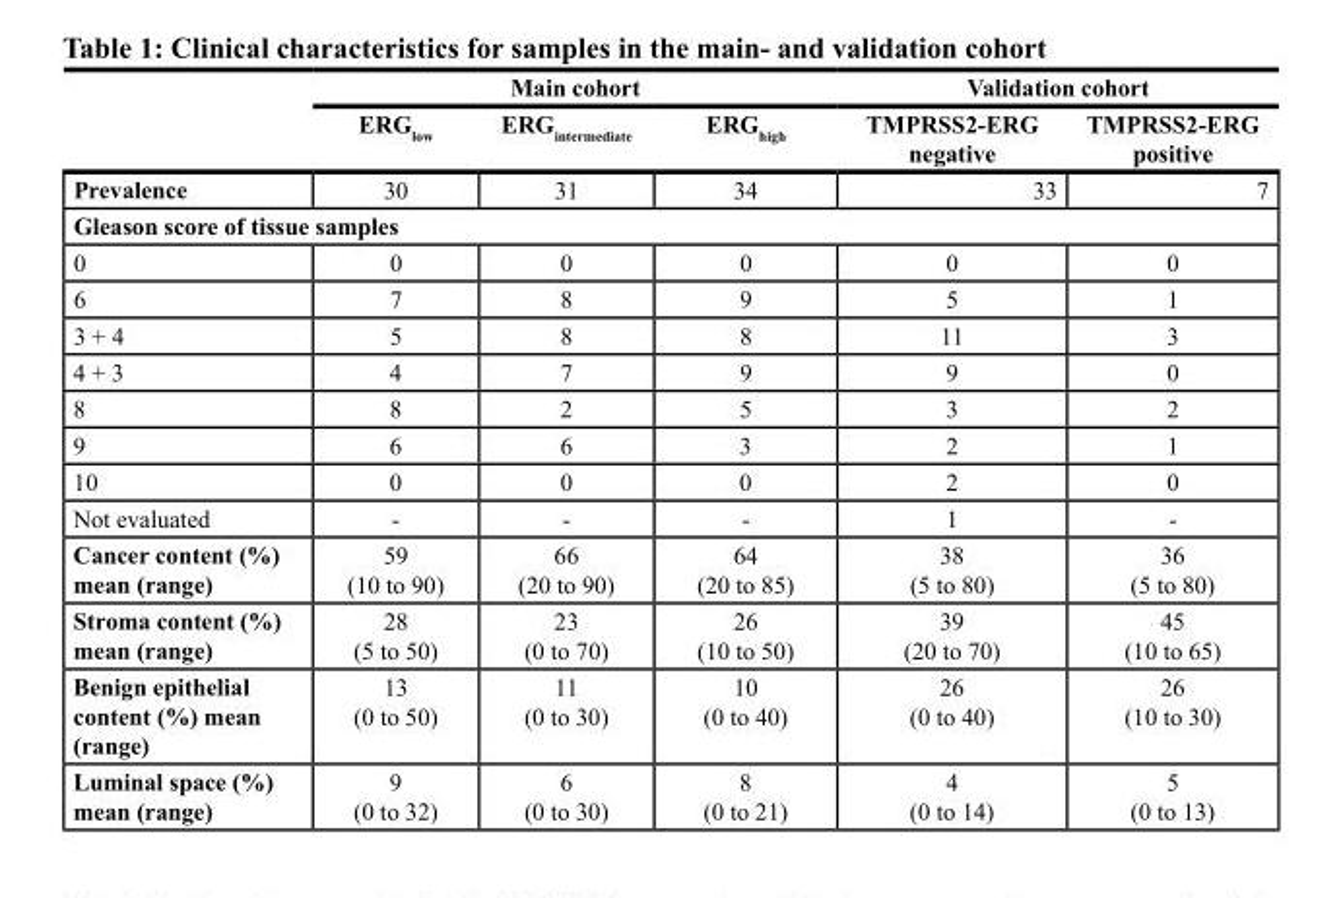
<table><thead><tr><td rowspan="2"></td><td colspan="3">Main cohort</td><td colspan="2">Validation cohort</td></tr><tr><td>erG<sub>low</sub></td><td>erG<sub>intermediate</sub></td><td>erG<sub>high</sub></td><td>tMPrss2-erG negative</td><td>tMPrss2-erG positive</td></tr></thead><tbody><tr><td>Prevalence</td><td>30</td><td>31</td><td>34</td><td>33</td><td>7</td></tr><tr><td colspan="6">Gleason score of tissue samples</td></tr><tr><td>0</td><td>0</td><td>0</td><td>0</td><td>0</td><td>0</td></tr><tr><td>6</td><td>7</td><td>8</td><td>9</td><td>5</td><td>1</td></tr><tr><td>3 + 4</td><td>5</td><td>8</td><td>8</td><td>11</td><td>3</td></tr><tr><td>4 + 3</td><td>4</td><td>7</td><td>9</td><td>9</td><td>0</td></tr><tr><td>8</td><td>8</td><td>2</td><td>5</td><td>3</td><td>2</td></tr><tr><td>9</td><td>6</td><td>6</td><td>3</td><td>2</td><td>1</td></tr><tr><td>10</td><td>0</td><td>0</td><td>0</td><td>2</td><td>0</td></tr><tr><td>Not evaluated</td><td>-</td><td>-</td><td>-</td><td>1</td><td>-</td></tr><tr><td>cancer content (%) mean (range)</td><td>59 (10 to 90)</td><td>66 (20 to 90)</td><td>64 (20 to 85)</td><td>38 (5 to 80)</td><td>36 (5 to 80)</td></tr><tr><td>stroma content (%) mean (range)</td><td>28 (5 to 50)</td><td>23 (0 to 70)</td><td>26 (10 to 50)</td><td>39 (20 to 70)</td><td>45 (10 to 65)</td></tr><tr><td>benign epithelial content (%) mean (range)</td><td>13 (0 to 50)</td><td>11 (0 to 30)</td><td>10 (0 to 40)</td><td>26 (0 to 40)</td><td>26 (10 to 30)</td></tr><tr><td>luminal space (%) mean (range)</td><td>9 (0 to 32)</td><td>6 (0 to 30)</td><td>8 (0 to 21)</td><td>4 (0 to 14)</td><td>5 (0 to 13)</td></tr></tbody></table>